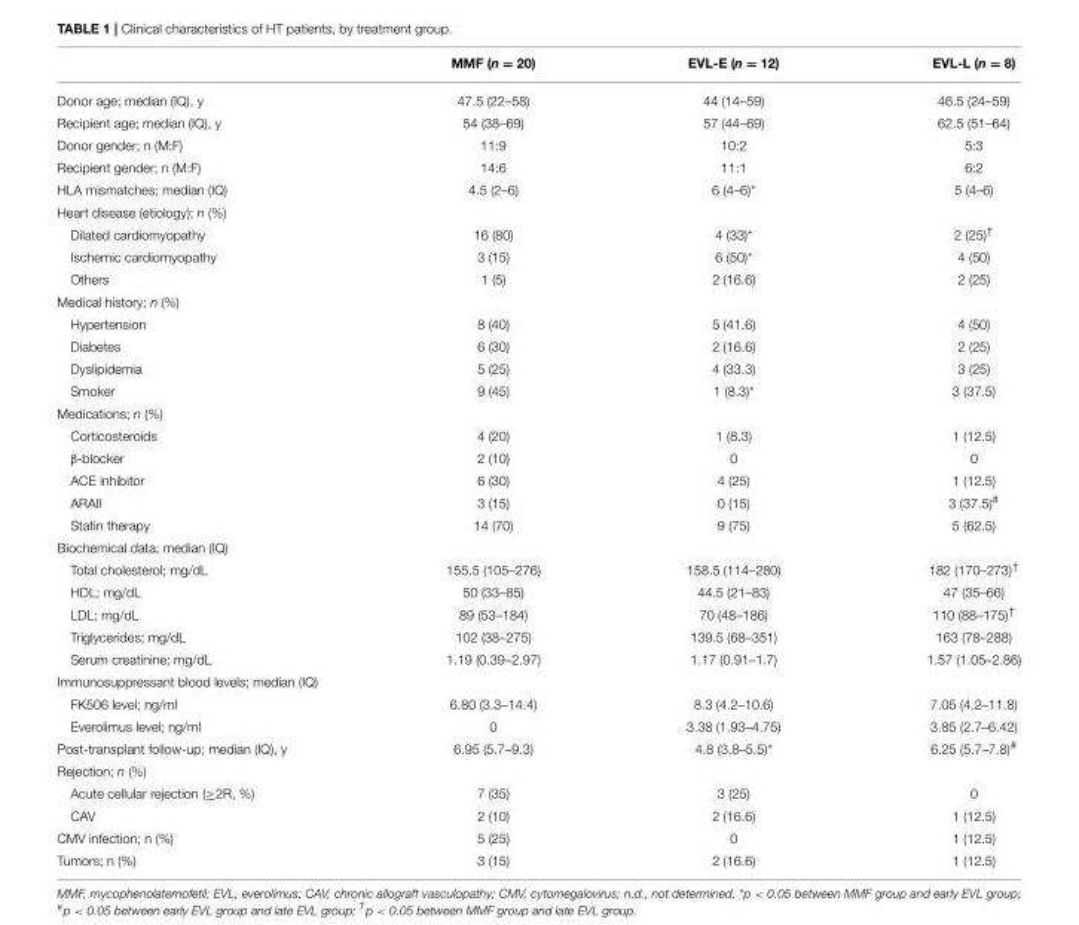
<table><thead><tr><td></td><td>MMF (n = 20)</td><td>EVL-E (n = 12)</td><td>EVL-L (n = 8)</td></tr></thead><tbody><tr><td>Donor age; median (IQ), y</td><td>47.5 (22–58)</td><td>44 (14–59)</td><td>46.5 (24–59)</td></tr><tr><td>Recipient age; median (IQ), y</td><td>54 (38–69)</td><td>57 (44–69)</td><td>62.5 (51–64)</td></tr><tr><td>Donor gender; n (M:F)</td><td>11:9</td><td>10:2</td><td>5:3</td></tr><tr><td>Recipient gender; n (M:F)</td><td>14:6</td><td>11:1</td><td>6:2</td></tr><tr><td>HLA mismatches; median (IQ)</td><td>4.5 (2–6)</td><td>6 (4–6)*</td><td>5 (4–6)</td></tr><tr><td colspan="4">Heart disease (etiology); n (%)</td></tr><tr><td>Dilated cardiomyopathy</td><td>16 (80)</td><td>4 (33)*</td><td>2 (25)<sup>†</sup></td></tr><tr><td>Ischemic cardiomyopathy</td><td>3 (15)</td><td>6 (50)*</td><td>4 (50)</td></tr><tr><td>Others</td><td>1 (5)</td><td>2 (16.6)</td><td>2 (25)</td></tr><tr><td colspan="4">Medical history; n (%)</td></tr><tr><td>Hypertension</td><td>8 (40)</td><td>5 (41.6)</td><td>4 (50)</td></tr><tr><td>Diabetes</td><td>6 (30)</td><td>2 (16.6)</td><td>2 (25)</td></tr><tr><td>Dyslipidemia</td><td>5 (25)</td><td>4 (33.3)</td><td>3 (25)</td></tr><tr><td>Smoker</td><td>9 (45)</td><td>1 (8.3)*</td><td>3 (37.5)</td></tr><tr><td colspan="4">Medications; n (%)</td></tr><tr><td>Corticosteroids</td><td>4 (20)</td><td>1 (8.3)</td><td>1 (12.5)</td></tr><tr><td>β-blocker</td><td>2 (10)</td><td>0</td><td>0</td></tr><tr><td>ACE inhibitor</td><td>6 (30)</td><td>4 (25)</td><td>1 (12.5)</td></tr><tr><td>ARAII</td><td>3 (15)</td><td>0 (15)</td><td>3 (37.5)<sup>#</sup></td></tr><tr><td>Statin therapy</td><td>14 (70)</td><td>9 (75)</td><td>5 (62.5)</td></tr><tr><td colspan="4">Biochemical data; median (IQ)</td></tr><tr><td>Total cholesterol; mg/dL</td><td>155.5 (105–276)</td><td>158.5 (114–280)</td><td>182 (170–273)<sup>†</sup></td></tr><tr><td>HDL; mg/dL</td><td>50 (33–85)</td><td>44.5 (21–83)</td><td>47 (35–66)</td></tr><tr><td>LDL; mg/dL</td><td>89 (53–184)</td><td>70 (48–186)</td><td>110 (88–175)<sup>†</sup></td></tr><tr><td>Triglycerides; mg/dL</td><td>102 (38–275)</td><td>139.5 (68–351)</td><td>163 (78–288)</td></tr><tr><td>Serum creatinine; mg/dL</td><td>1.19 (0.39–2.97)</td><td>1.17 (0.91–1.7)</td><td>1.57 (1.05–2.86)</td></tr><tr><td colspan="4">Immunosuppressant blood levels; median (IQ)</td></tr><tr><td>FK506 level; ng/ml</td><td>6.80 (3.3–14.4)</td><td>8.3 (4.2–10.6)</td><td>7.05 (4.2–11.8)</td></tr><tr><td>Everolimus level; ng/ml</td><td>0</td><td>3.38 (1.93–4.75)</td><td>3.85 (2.7–6.42)</td></tr><tr><td>Post-transplant follow-up; median (IQ), y</td><td>6.95 (5.7–9.3)</td><td>4.8 (3.8–5.5)*</td><td>6.25 (5.7–7.8)<sup>#</sup></td></tr><tr><td colspan="4">Rejection; n (%)</td></tr><tr><td>Acute cellular rejection (≥2R, %)</td><td>7 (35)</td><td>3 (25)</td><td>0</td></tr><tr><td>CAV</td><td>2 (10)</td><td>2 (16.6)</td><td>1 (12.5)</td></tr><tr><td>CMV infection; n (%)</td><td>5 (25)</td><td>0</td><td>1 (12.5)</td></tr><tr><td>Tumors; n (%)</td><td>3 (15)</td><td>2 (16.6)</td><td>1 (12.5)</td></tr></tbody></table>